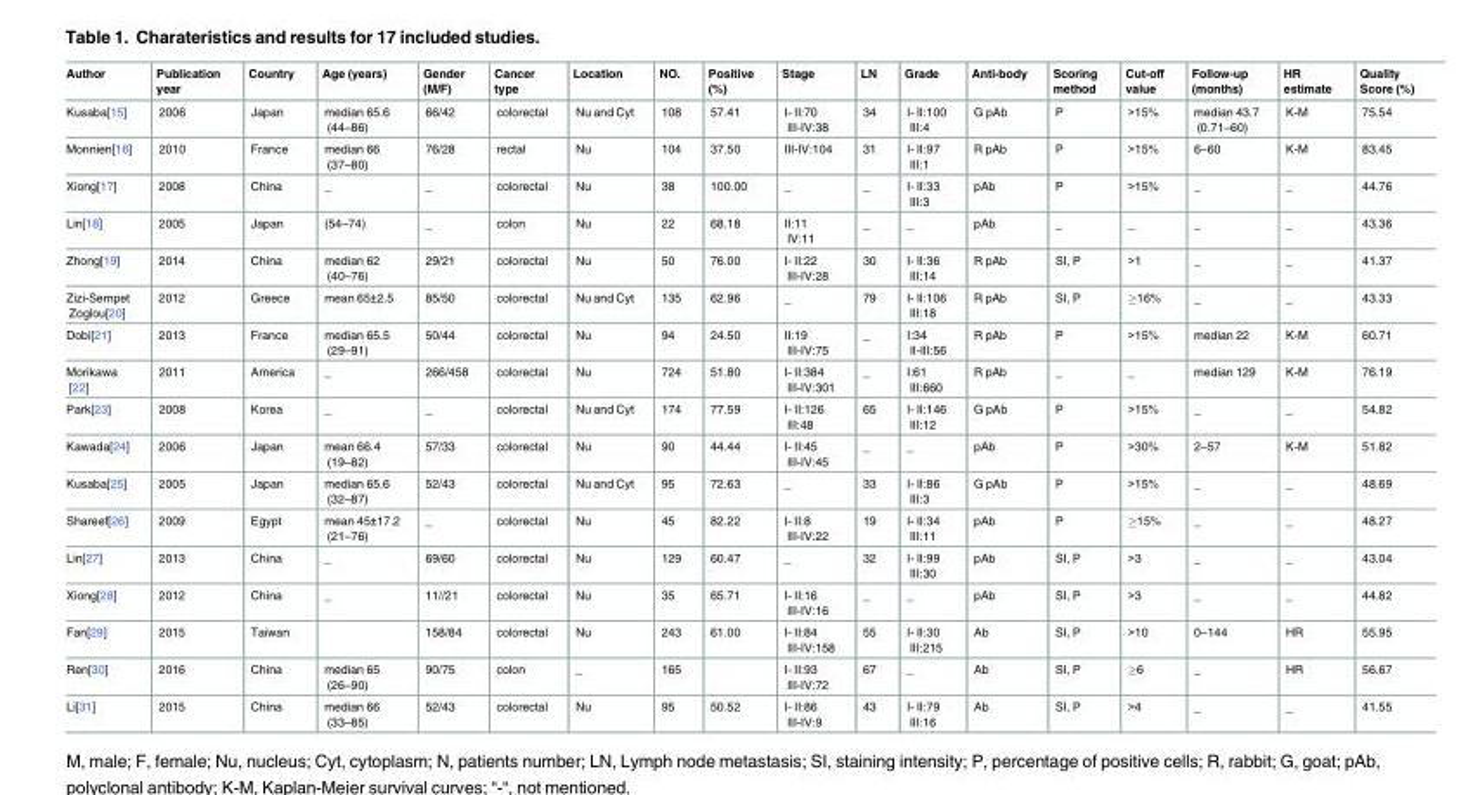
<table><thead><tr><td>Author</td><td>Publication year</td><td>Country</td><td>Age (years)</td><td>Gender (M/F)</td><td>Cancer type</td><td>Location</td><td>NO.</td><td>Positive (%)</td><td>Stage</td><td>LN</td><td>Grade</td><td>Anti-body</td><td>Scoring method</td><td>Cut-off value</td><td>Follow-up (months)</td><td>HR estimate</td><td>Quality Score (%)</td></tr></thead><tbody><tr><td>Kusaba[15]</td><td>2006</td><td>Japan</td><td>median 65.6 (44–86)</td><td>66/42</td><td>colorectal</td><td>Nu and Cyt</td><td>108</td><td>57.41</td><td>I- II:70 III-IV:38</td><td>34</td><td>I- II:100 III:4</td><td>G pAb</td><td>P</td><td>&gt;15%</td><td>median 43.7 (0.71–60)</td><td>K-M</td><td>75.54</td></tr><tr><td>Monnien[16]</td><td>2010</td><td>France</td><td>median 66 (37–80)</td><td>76/28</td><td>rectal</td><td>Nu</td><td>104</td><td>37.50</td><td>III-IV:104</td><td>31</td><td>I- II:97 III:1</td><td>R pAb</td><td>P</td><td>&gt;15%</td><td>6–60</td><td>K-M</td><td>83.45</td></tr><tr><td>Xiong[17]</td><td>2008</td><td>China</td><td>_</td><td>_</td><td>colorectal</td><td>Nu</td><td>38</td><td>100.00</td><td>_</td><td>_</td><td>I- II:33 III:3</td><td>pAb</td><td>P</td><td>&gt;15%</td><td>_</td><td>_</td><td>44.76</td></tr><tr><td>Lin[18]</td><td>2005</td><td>Japan</td><td>(54–74)</td><td>_</td><td>colon</td><td>Nu</td><td>22</td><td>68.18</td><td>II:11 IV:11</td><td>_</td><td>_</td><td>pAb</td><td>_</td><td>_</td><td>_</td><td>_</td><td>43.36</td></tr><tr><td>Zhong[19]</td><td>2014</td><td>China</td><td>median 62 (40–76)</td><td>29/21</td><td>colorectal</td><td>Nu</td><td>50</td><td>76.00</td><td>I- II:22 III-IV:28</td><td>30</td><td>I- II:36 III:14</td><td>R pAb</td><td>SI, P</td><td>&gt;1</td><td>_</td><td>_</td><td>41.37</td></tr><tr><td>Zizi-Sempet Zoglou[20]</td><td>2012</td><td>Greece</td><td>mean 65±2.5</td><td>85/50</td><td>colorectal</td><td>Nu and Cyt</td><td>135</td><td>62.96</td><td>_</td><td>79</td><td>I- II:106 III:18</td><td>R pAb</td><td>SI, P</td><td>≥16%</td><td>_</td><td>_</td><td>43.33</td></tr><tr><td>Dobi[21]</td><td>2013</td><td>France</td><td>median 65.5 (29–91)</td><td>50/44</td><td>colorectal</td><td>Nu</td><td>94</td><td>24.50</td><td>II:19 III-IV:75</td><td>_</td><td>I:34 II-III:56</td><td>R pAb</td><td>P</td><td>&gt;15%</td><td>median 22</td><td>K-M</td><td>60.71</td></tr><tr><td>Morikawa [22]</td><td>2011</td><td>America</td><td>_</td><td>266/458</td><td>colorectal</td><td>Nu</td><td>724</td><td>51.80</td><td>I- II:384 III-IV:301</td><td>_</td><td>I:61 III:660</td><td>R pAb</td><td>_</td><td>_</td><td>median 129</td><td>K-M</td><td>76.19</td></tr><tr><td>Park[23]</td><td>2008</td><td>Korea</td><td>_</td><td>_</td><td>colorectal</td><td>Nu and Cyt</td><td>174</td><td>77.59</td><td>I- II:126 III:48</td><td>65</td><td>I- II:146 III:12</td><td>G pAb</td><td>P</td><td>&gt;15%</td><td>_</td><td>_</td><td>54.82</td></tr><tr><td>Kawada[24]</td><td>2006</td><td>Japan</td><td>mean 66.4 (19–82)</td><td>57/33</td><td>colorectal</td><td>Nu</td><td>90</td><td>44.44</td><td>I- II:45 III-IV:45</td><td>_</td><td>_</td><td>pAb</td><td>P</td><td>&gt;30%</td><td>2–57</td><td>K-M</td><td>51.82</td></tr><tr><td>Kusaba[25]</td><td>2005</td><td>Japan</td><td>median 65.6 (32–87)</td><td>52/43</td><td>colorectal</td><td>Nu and Cyt</td><td>95</td><td>72.63</td><td>_</td><td>33</td><td>I- II:86 III:3</td><td>G pAb</td><td>P</td><td>&gt;15%</td><td>_</td><td>_</td><td>48.69</td></tr><tr><td>Shareef[26]</td><td>2009</td><td>Egypt</td><td>mean 45±17.2 (21–76)</td><td>_</td><td>colorectal</td><td>Nu</td><td>45</td><td>82.22</td><td>I- II:8 III-IV:22</td><td>19</td><td>I- II:34 III:11</td><td>pAb</td><td>P</td><td>≥15%</td><td>_</td><td>_</td><td>48.27</td></tr><tr><td>Lin[27]</td><td>2013</td><td>China</td><td>_</td><td>69/60</td><td>colorectal</td><td>Nu</td><td>129</td><td>60.47</td><td>_</td><td>32</td><td>I- II:99 III:30</td><td>pAb</td><td>SI, P</td><td>&gt;3</td><td>_</td><td>_</td><td>43.04</td></tr><tr><td>Xiong[28]</td><td>2012</td><td>China</td><td>_</td><td>11//21</td><td>colorectal</td><td>Nu</td><td>35</td><td>65.71</td><td>I- II:16 III-IV:16</td><td>_</td><td>_</td><td>pAb</td><td>SI, P</td><td>&gt;3</td><td>_</td><td>_</td><td>44.82</td></tr><tr><td>Fan[29]</td><td>2015</td><td>Taiwan</td><td></td><td>158/84</td><td>colorectal</td><td>Nu</td><td>243</td><td>61.00</td><td>I- II:84 III-IV:158</td><td>55</td><td>I- II:30 III:215</td><td>Ab</td><td>SI, P</td><td>&gt;10</td><td>0–144</td><td>HR</td><td>55.95</td></tr><tr><td>Ren[30]</td><td>2016</td><td>China</td><td>median 65 (26–90)</td><td>90/75</td><td>colon</td><td>_</td><td>165</td><td></td><td>I- II:93 III-IV:72</td><td>67</td><td>_</td><td>Ab</td><td>SI, P</td><td>≥6</td><td>_</td><td>HR</td><td>56.67</td></tr><tr><td>Li[31]</td><td>2015</td><td>China</td><td>median 66 (33–85)</td><td>52/43</td><td>colorectal</td><td>Nu</td><td>95</td><td>50.52</td><td>I- II:86 III-IV:9</td><td>43</td><td>I- II:79 III:16</td><td>Ab</td><td>SI, P</td><td>&gt;4</td><td>_</td><td>_</td><td>41.55</td></tr></tbody></table>